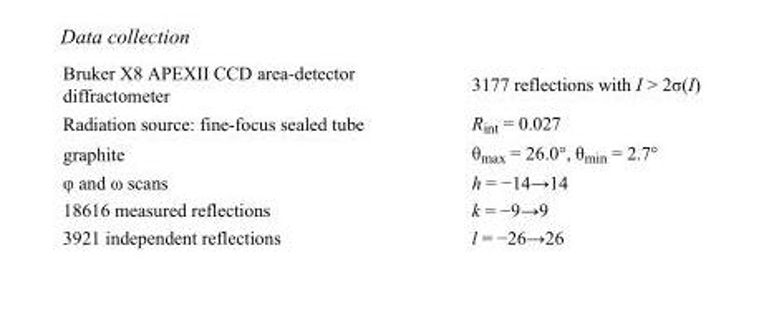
<table><tbody><tr><td>Bruker X8 APEXII CCD area-detector diffractometer</td><td>3177 reflections with I &gt; 2σ(I)</td></tr><tr><td>Radiation source: fine-focus sealed tube</td><td>R<sub>int</sub> = 0.027</td></tr><tr><td>graphite</td><td>θ<sub>max</sub> = 26.0°, θ<sub>min</sub> = 2.7°</td></tr><tr><td>φ and ω scans</td><td>h = −14→14</td></tr><tr><td>18616 measured reflections</td><td>k = −9→9</td></tr><tr><td>3921 independent reflections</td><td>l = −26→26</td></tr></tbody></table>